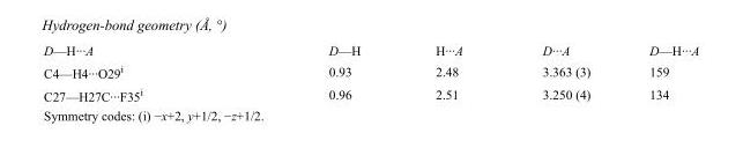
<table><tbody><tr><td>D—H···A</td><td>D—H</td><td>H···A</td><td>D···A</td><td>D—H···A</td></tr><tr><td>C4—H4···O29<sup>i</sup></td><td>0.93</td><td>2.48</td><td>3.363 (3)</td><td>159</td></tr><tr><td>C27—H27C···F35<sup>i</sup></td><td>0.96</td><td>2.51</td><td>3.250 (4)</td><td>134</td></tr></tbody></table>